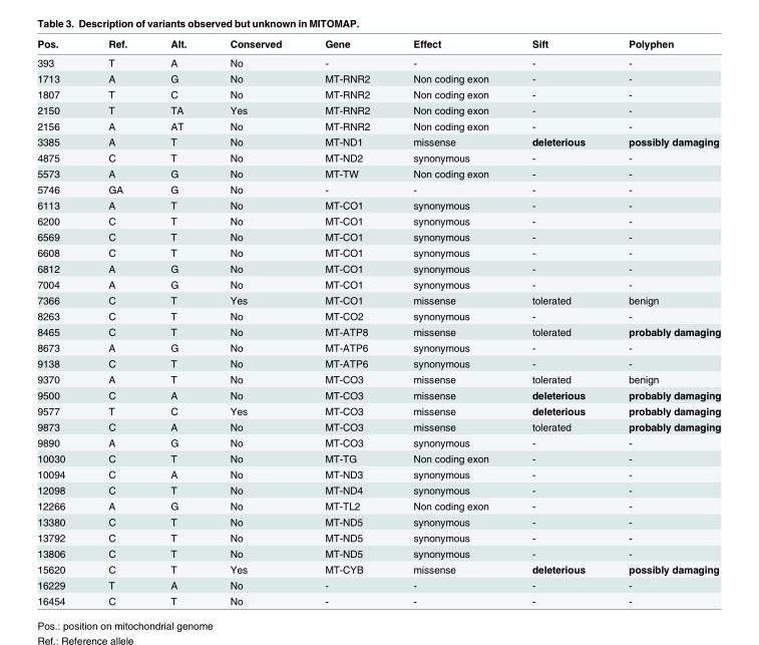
<table><thead><tr><td>Pos.</td><td>Ref.</td><td>Alt.</td><td>Conserved</td><td>Gene</td><td>Effect</td><td>Sift</td><td>Polyphen</td></tr></thead><tbody><tr><td>393</td><td>T</td><td>A</td><td>No</td><td>-</td><td>-</td><td>-</td><td>-</td></tr><tr><td>1713</td><td>A</td><td>G</td><td>No</td><td>MT-RNR2</td><td>Non coding exon</td><td>-</td><td>-</td></tr><tr><td>1807</td><td>T</td><td>C</td><td>No</td><td>MT-RNR2</td><td>Non coding exon</td><td>-</td><td>-</td></tr><tr><td>2150</td><td>T</td><td>TA</td><td>Yes</td><td>MT-RNR2</td><td>Non coding exon</td><td>-</td><td>-</td></tr><tr><td>2156</td><td>A</td><td>AT</td><td>No</td><td>MT-RNR2</td><td>Non coding exon</td><td>-</td><td>-</td></tr><tr><td>3385</td><td>A</td><td>T</td><td>No</td><td>MT-ND1</td><td>missense</td><td>deleterious</td><td>possibly damaging</td></tr><tr><td>4875</td><td>C</td><td>T</td><td>No</td><td>MT-ND2</td><td>synonymous</td><td>-</td><td>-</td></tr><tr><td>5573</td><td>A</td><td>G</td><td>No</td><td>MT-TW</td><td>Non coding exon</td><td>-</td><td>-</td></tr><tr><td>5746</td><td>GA</td><td>G</td><td>No</td><td>-</td><td>-</td><td>-</td><td>-</td></tr><tr><td>6113</td><td>A</td><td>T</td><td>No</td><td>MT-CO1</td><td>synonymous</td><td>-</td><td>-</td></tr><tr><td>6200</td><td>C</td><td>T</td><td>No</td><td>MT-CO1</td><td>synonymous</td><td>-</td><td>-</td></tr><tr><td>6569</td><td>C</td><td>T</td><td>No</td><td>MT-CO1</td><td>synonymous</td><td>-</td><td>-</td></tr><tr><td>6608</td><td>C</td><td>T</td><td>No</td><td>MT-CO1</td><td>synonymous</td><td>-</td><td>-</td></tr><tr><td>6812</td><td>A</td><td>G</td><td>No</td><td>MT-CO1</td><td>synonymous</td><td>-</td><td>-</td></tr><tr><td>7004</td><td>A</td><td>G</td><td>No</td><td>MT-CO1</td><td>synonymous</td><td>-</td><td>-</td></tr><tr><td>7366</td><td>C</td><td>T</td><td>Yes</td><td>MT-CO1</td><td>missense</td><td>tolerated</td><td>benign</td></tr><tr><td>8263</td><td>C</td><td>T</td><td>No</td><td>MT-CO2</td><td>synonymous</td><td>-</td><td>-</td></tr><tr><td>8465</td><td>C</td><td>T</td><td>No</td><td>MT-ATP8</td><td>missense</td><td>tolerated</td><td>probably damaging</td></tr><tr><td>8673</td><td>A</td><td>G</td><td>No</td><td>MT-ATP6</td><td>synonymous</td><td>-</td><td>-</td></tr><tr><td>9138</td><td>C</td><td>T</td><td>No</td><td>MT-ATP6</td><td>synonymous</td><td>-</td><td>-</td></tr><tr><td>9370</td><td>A</td><td>T</td><td>No</td><td>MT-CO3</td><td>missense</td><td>tolerated</td><td>benign</td></tr><tr><td>9500</td><td>C</td><td>A</td><td>No</td><td>MT-CO3</td><td>missense</td><td>deleterious</td><td>probably damaging</td></tr><tr><td>9577</td><td>T</td><td>C</td><td>Yes</td><td>MT-CO3</td><td>missense</td><td>deleterious</td><td>probably damaging</td></tr><tr><td>9873</td><td>C</td><td>A</td><td>No</td><td>MT-CO3</td><td>missense</td><td>tolerated</td><td>probably damaging</td></tr><tr><td>9890</td><td>A</td><td>G</td><td>No</td><td>MT-CO3</td><td>synonymous</td><td>-</td><td>-</td></tr><tr><td>10030</td><td>C</td><td>T</td><td>No</td><td>MT-TG</td><td>Non coding exon</td><td>-</td><td>-</td></tr><tr><td>10094</td><td>C</td><td>A</td><td>No</td><td>MT-ND3</td><td>synonymous</td><td>-</td><td>-</td></tr><tr><td>12098</td><td>C</td><td>T</td><td>No</td><td>MT-ND4</td><td>synonymous</td><td>-</td><td>-</td></tr><tr><td>12266</td><td>A</td><td>G</td><td>No</td><td>MT-TL2</td><td>Non coding exon</td><td>-</td><td>-</td></tr><tr><td>13380</td><td>C</td><td>T</td><td>No</td><td>MT-ND5</td><td>synonymous</td><td>-</td><td>-</td></tr><tr><td>13792</td><td>C</td><td>T</td><td>No</td><td>MT-ND5</td><td>synonymous</td><td>-</td><td>-</td></tr><tr><td>13806</td><td>C</td><td>T</td><td>No</td><td>MT-ND5</td><td>synonymous</td><td>-</td><td>-</td></tr><tr><td>15620</td><td>C</td><td>T</td><td>Yes</td><td>MT-CYB</td><td>missense</td><td>deleterious</td><td>possibly damaging</td></tr><tr><td>16229</td><td>T</td><td>A</td><td>No</td><td>-</td><td>-</td><td>-</td><td>-</td></tr><tr><td>16454</td><td>C</td><td>T</td><td>No</td><td>-</td><td>-</td><td>-</td><td>-</td></tr></tbody></table>